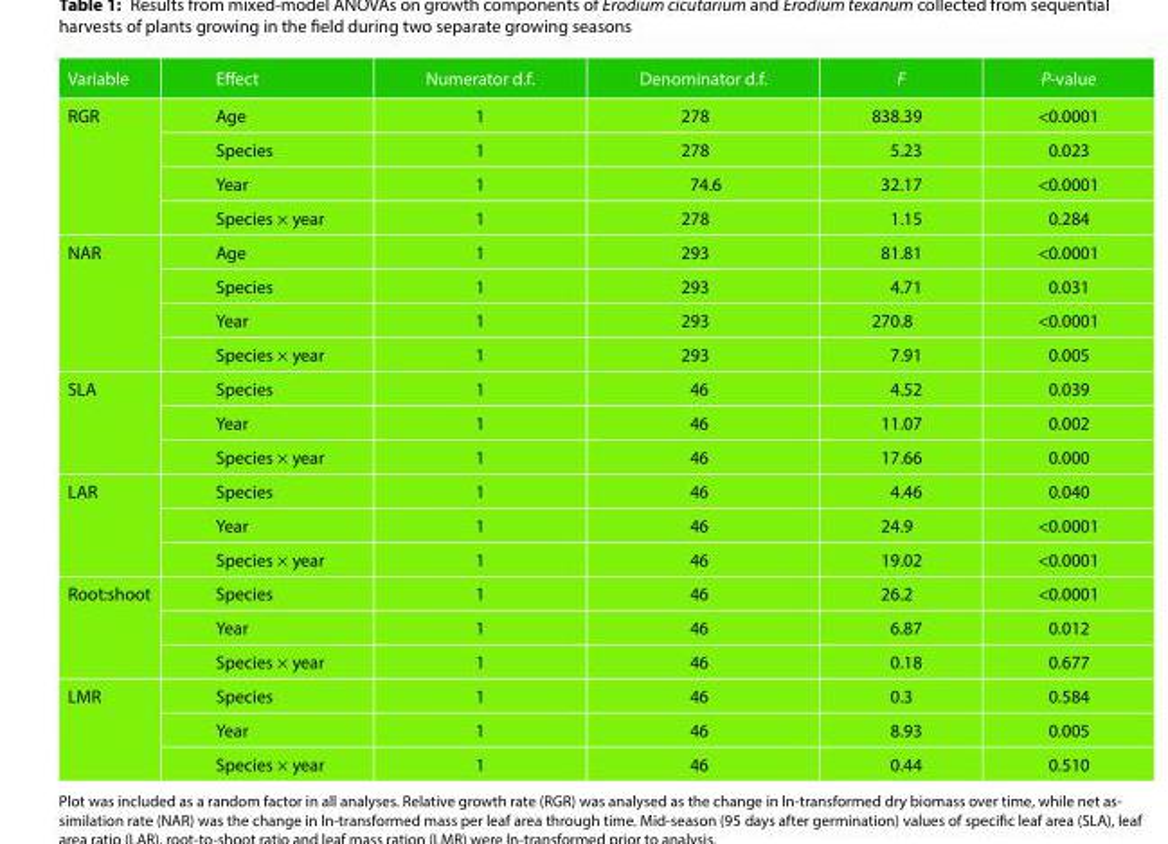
<table><thead><tr><td>Variable</td><td>Effect</td><td>Numerator d.f.</td><td>Denominator d.f.</td><td>F</td><td>P-value</td></tr></thead><tbody><tr><td rowspan="4">RGR</td><td>Age</td><td>1</td><td>278</td><td>838.39</td><td>&lt;0.0001</td></tr><tr><td>Species</td><td>1</td><td>278</td><td>5.23</td><td>0.023</td></tr><tr><td>Year</td><td>1</td><td>74.6</td><td>32.17</td><td>&lt;0.0001</td></tr><tr><td>Species × year</td><td>1</td><td>278</td><td>1.15</td><td>0.284</td></tr><tr><td rowspan="4">NAR</td><td>Age</td><td>1</td><td>293</td><td>81.81</td><td>&lt;0.0001</td></tr><tr><td>Species</td><td>1</td><td>293</td><td>4.71</td><td>0.031</td></tr><tr><td>Year</td><td>1</td><td>293</td><td>270.8</td><td>&lt;0.0001</td></tr><tr><td>Species × year</td><td>1</td><td>293</td><td>7.91</td><td>0.005</td></tr><tr><td rowspan="3">SLA</td><td>Species</td><td>1</td><td>46</td><td>4.52</td><td>0.039</td></tr><tr><td>Year</td><td>1</td><td>46</td><td>11.07</td><td>0.002</td></tr><tr><td>Species × year</td><td>1</td><td>46</td><td>17.66</td><td>0.000</td></tr><tr><td rowspan="3">LAR</td><td>Species</td><td>1</td><td>46</td><td>4.46</td><td>0.040</td></tr><tr><td>Year</td><td>1</td><td>46</td><td>24.9</td><td>&lt;0.0001</td></tr><tr><td>Species × year</td><td>1</td><td>46</td><td>19.02</td><td>&lt;0.0001</td></tr><tr><td rowspan="3">Root:shoot</td><td>Species</td><td>1</td><td>46</td><td>26.2</td><td>&lt;0.0001</td></tr><tr><td>Year</td><td>1</td><td>46</td><td>6.87</td><td>0.012</td></tr><tr><td>Species × year</td><td>1</td><td>46</td><td>0.18</td><td>0.677</td></tr><tr><td rowspan="3">LMR</td><td>Species</td><td>1</td><td>46</td><td>0.3</td><td>0.584</td></tr><tr><td>Year</td><td>1</td><td>46</td><td>8.93</td><td>0.005</td></tr><tr><td>Species × year</td><td>1</td><td>46</td><td>0.44</td><td>0.510</td></tr></tbody></table>